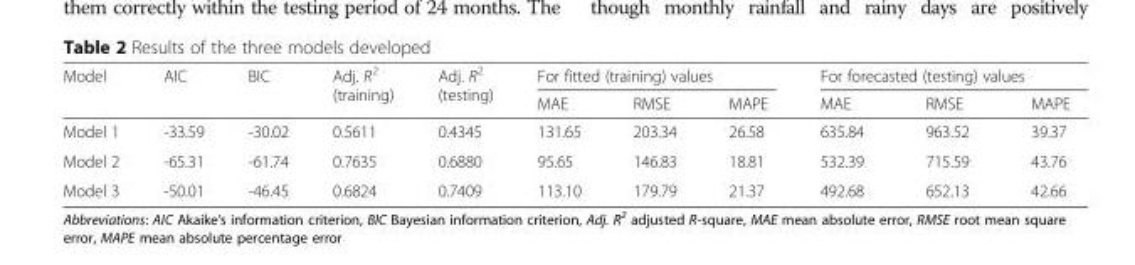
<table><thead><tr><td rowspan="2">Model</td><td rowspan="2">AIC</td><td rowspan="2">BIC</td><td rowspan="2">Adj. R<sup>2</sup> (training)</td><td rowspan="2">Adj. R<sup>2</sup> (testing)</td><td colspan="3">For fitted (training) values</td><td colspan="3">For forecasted (testing) values</td></tr><tr><td>MAE</td><td>RMSE</td><td>MAPE</td><td>MAE</td><td>RMSE</td><td>MAPE</td></tr></thead><tbody><tr><td>Model 1</td><td>-33.59</td><td>-30.02</td><td>0.5611</td><td>0.4345</td><td>131.65</td><td>203.34</td><td>26.58</td><td>635.84</td><td>963.52</td><td>39.37</td></tr><tr><td>Model 2</td><td>-65.31</td><td>-61.74</td><td>0.7635</td><td>0.6880</td><td>95.65</td><td>146.83</td><td>18.81</td><td>532.39</td><td>715.59</td><td>43.76</td></tr><tr><td>Model 3</td><td>-50.01</td><td>-46.45</td><td>0.6824</td><td>0.7409</td><td>113.10</td><td>179.79</td><td>21.37</td><td>492.68</td><td>652.13</td><td>42.66</td></tr></tbody></table>